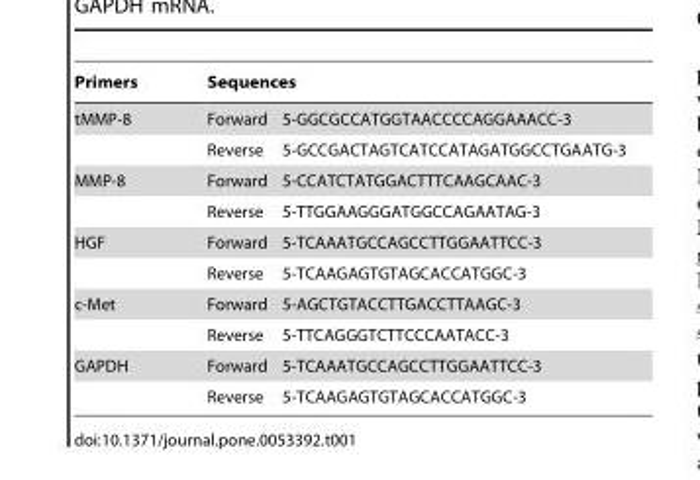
<table><thead><tr><td rowspan="2">Primers tMMP-8</td><td colspan="2">Sequences</td></tr><tr><td>Forward</td><td>5-GGCGCCATGGTAACCCCAGGAAACC-3</td></tr></thead><tbody><tr><td></td><td>Reverse</td><td>5-GCCGACTAGTCATCCATAGATGGCCTGAATG-3</td></tr><tr><td rowspan="2">MMP-8</td><td>Forward</td><td>5-CCATCTATGGACTTTCAAGCAAC-3</td></tr><tr><td>Reverse</td><td>5-TTGGAAGGGATGGCCAGAATAG-3</td></tr><tr><td rowspan="2">HGF</td><td>Forward</td><td>5-TCAAATGCCAGCCTTGGAATTCC-3</td></tr><tr><td>Reverse</td><td>5-TCAAGAGTGTAGCACCATGGC-3</td></tr><tr><td rowspan="2">c-Met</td><td>Forward</td><td>5-AGCTGTACCTTGACCTTAAGC-3</td></tr><tr><td>Reverse</td><td>5-TTCAGGGTCTTCCCAATACC-3</td></tr><tr><td rowspan="2">GAPDH</td><td>Forward</td><td>5-TCAAATGCCAGCCTTGGAATTCC-3</td></tr><tr><td>Reverse</td><td>5-TCAAGAGTGTAGCACCATGGC-3</td></tr></tbody></table>